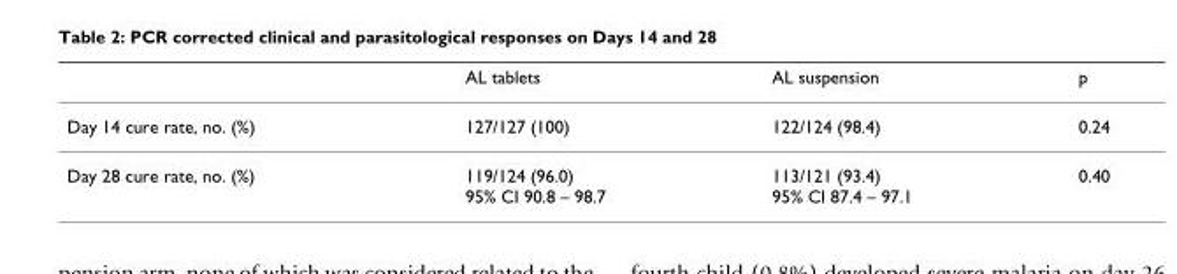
<table><thead><tr><td></td><td>AL tablets</td><td>AL suspension</td><td>p</td></tr></thead><tbody><tr><td>Day 14 cure rate, no. (%)</td><td>127/127 (100)</td><td>122/124 (98.4)</td><td>0.24</td></tr><tr><td>Day 28 cure rate, no. (%)</td><td>119/124 (96.0) 95% CI 90.8 – 98.7</td><td>113/121 (93.4) 95% CI 87.4 – 97.1</td><td>0.40</td></tr></tbody></table>